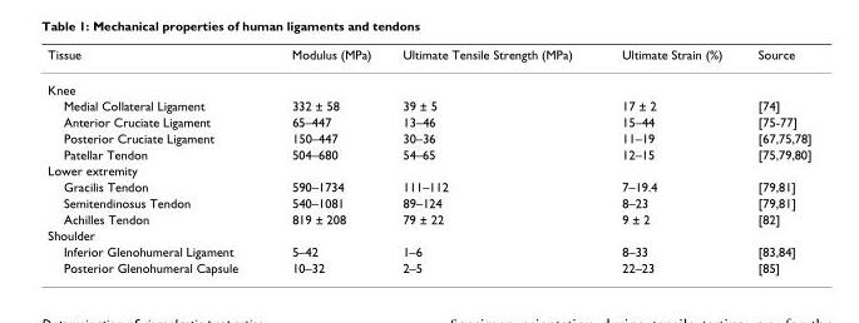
<table><thead><tr><td>Tissue</td><td>Modulus (MPa)</td><td>Ultimate Tensile Strength (MPa)</td><td>Ultimate Strain (%)</td><td>Source</td></tr></thead><tbody><tr><td colspan="5">Knee</td></tr><tr><td>Medial Collateral Ligament</td><td>332 ± 58</td><td>39 ± 5</td><td>17 ± 2</td><td>[74]</td></tr><tr><td>Anterior Cruciate Ligament</td><td>65–447</td><td>13–46</td><td>15–44</td><td>[75-77]</td></tr><tr><td>Posterior Cruciate Ligament</td><td>150–447</td><td>30–36</td><td>11–19</td><td>[67,75,78]</td></tr><tr><td>Patellar Tendon</td><td>504–680</td><td>54–65</td><td>12–15</td><td>[75,79,80]</td></tr><tr><td colspan="5">Lower extremity</td></tr><tr><td>Gracilis Tendon</td><td>590–1734</td><td>111–112</td><td>7–19.4</td><td>[79,81]</td></tr><tr><td>Semitendinosus Tendon</td><td>540–1081</td><td>89–124</td><td>8–23</td><td>[79,81]</td></tr><tr><td>Achilles Tendon</td><td>819 ± 208</td><td>79 ± 22</td><td>9 ± 2</td><td>[82]</td></tr><tr><td colspan="5">Shoulder</td></tr><tr><td>Inferior Glenohumeral Ligament</td><td>5–42</td><td>1–6</td><td>8–33</td><td>[83,84]</td></tr><tr><td>Posterior Glenohumeral Capsule</td><td>10–32</td><td>2–5</td><td>22–23</td><td>[85]</td></tr></tbody></table>